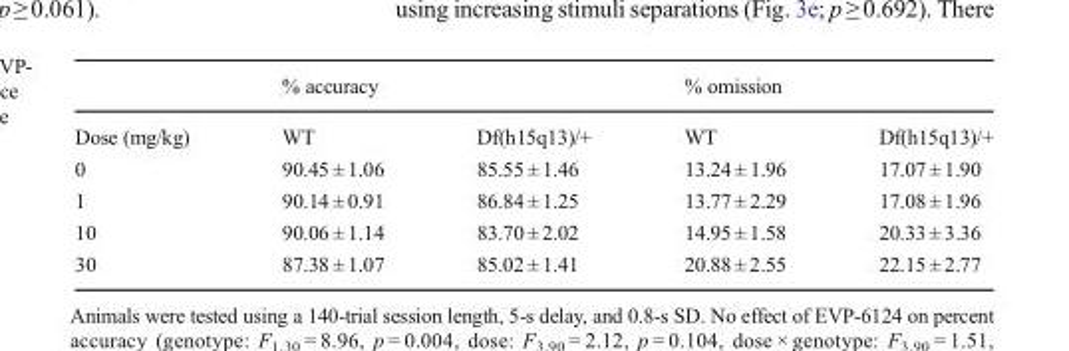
<table><thead><tr><td rowspan="2">Dose (mg/kg)</td><td colspan="2">% accuracy</td><td colspan="2">% omission</td></tr><tr><td>WT</td><td>Df(h15q13)/+</td><td>WT</td><td>Df(h15q13)/+</td></tr></thead><tbody><tr><td>0</td><td>90.45 ± 1.06</td><td>85.55 ± 1.46</td><td>13.24 ± 1.96</td><td>17.07 ± 1.90</td></tr><tr><td>1</td><td>90.14 ± 0.91</td><td>86.84 ± 1.25</td><td>13.77 ± 2.29</td><td>17.08 ± 1.96</td></tr><tr><td>10</td><td>90.06 ± 1.14</td><td>83.70 ± 2.02</td><td>14.95 ± 1.58</td><td>20.33 ± 3.36</td></tr><tr><td>30</td><td>87.38 ± 1.07</td><td>85.02 ± 1.41</td><td>20.88 ± 2.55</td><td>22.15 ± 2.77</td></tr></tbody></table>